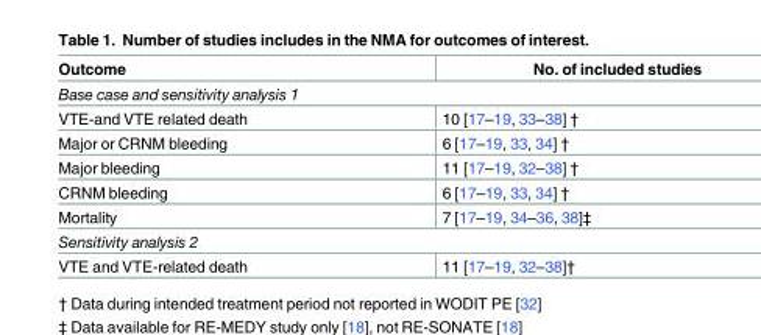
<table><thead><tr><td>Outcome</td><td>No. of included studies</td></tr></thead><tbody><tr><td colspan="2">Base case and sensitivity analysis 1</td></tr><tr><td>VTE-and VTE related death</td><td>10 [17–19, 33–38] †</td></tr><tr><td>Major or CRNM bleeding</td><td>6 [17–19, 33, 34] †</td></tr><tr><td>Major bleeding</td><td>11 [17–19, 32–38] †</td></tr><tr><td>CRNM bleeding</td><td>6 [17–19, 33, 34] †</td></tr><tr><td>Mortality</td><td>7 [17–19, 34–36, 38]‡</td></tr><tr><td colspan="2">Sensitivity analysis 2</td></tr><tr><td>VTE and VTE-related death</td><td>11 [17–19, 32–38]†</td></tr></tbody></table>